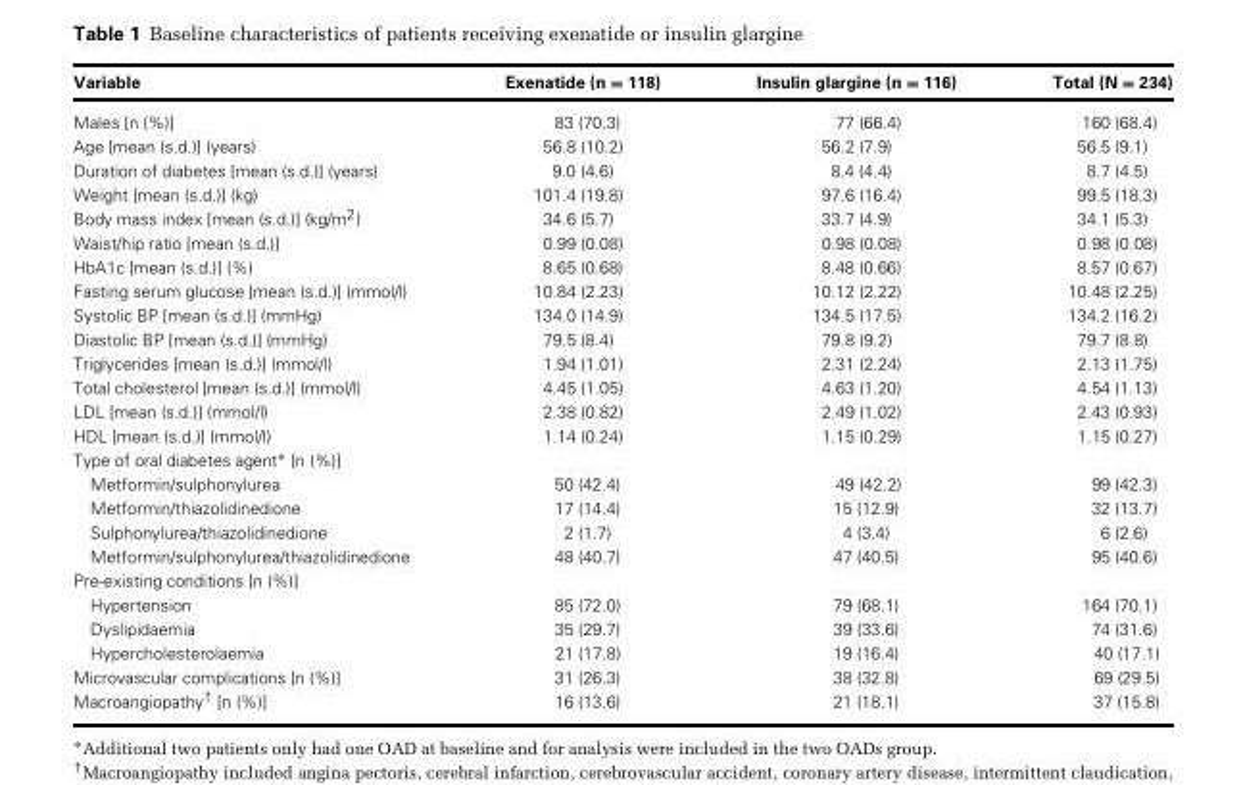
<table><thead><tr><td>Variable</td><td>Exenatide (n = 118)</td><td>Insulin glargine (n = 116)</td><td>Total (N = 234)</td></tr></thead><tbody><tr><td>Males [n (%)]</td><td>83 (70.3)</td><td>77 (66.4)</td><td>160 (68.4)</td></tr><tr><td>Age [mean (s.d.)] (years)</td><td>56.8 (10.2)</td><td>56.2 (7.9)</td><td>56.5 (9.1)</td></tr><tr><td>Duration of diabetes [mean (s.d.)] (years)</td><td>9.0 (4.6)</td><td>8.4 (4.4)</td><td>8.7 (4.5)</td></tr><tr><td>Weight [mean (s.d.)] (kg)</td><td>101.4 (19.8)</td><td>97.6 (16.4)</td><td>99.5 (18.3)</td></tr><tr><td>Body mass index [mean (s.d.)] (kg/m<sup>2</sup>)</td><td>34.6 (5.7)</td><td>33.7 (4.9)</td><td>34.1 (5.3)</td></tr><tr><td>Waist/hip ratio [mean (s.d.)]</td><td>0.99 (0.08)</td><td>0.98 (0.08)</td><td>0.98 (0.08)</td></tr><tr><td>HbA1c [mean (s.d.)] (%)</td><td>8.65 (0.68)</td><td>8.48 (0.66)</td><td>8.57 (0.67)</td></tr><tr><td>Fasting serum glucose [mean (s.d.)] (mmol/l)</td><td>10.84 (2.23)</td><td>10.12 (2.22)</td><td>10.48 (2.25)</td></tr><tr><td>Systolic BP [mean (s.d.)] (mmHg)</td><td>134.0 (14.9)</td><td>134.5 (17.5)</td><td>134.2 (16.2)</td></tr><tr><td>Diastolic BP [mean (s.d.)] (mmHg)</td><td>79.5 (8.4)</td><td>79.8 (9.2)</td><td>79.7 (8.8)</td></tr><tr><td>Triglycerides [mean (s.d.)] (mmol/l)</td><td>1.94 (1.01)</td><td>2.31 (2.24)</td><td>2.13 (1.75)</td></tr><tr><td>Total cholesterol [mean (s.d.)] (mmol/l)</td><td>4.45 (1.05)</td><td>4.63 (1.20)</td><td>4.54 (1.13)</td></tr><tr><td>LDL [mean (s.d.)] (mmol/l)</td><td>2.38 (0.82)</td><td>2.49 (1.02)</td><td>2.43 (0.93)</td></tr><tr><td>HDL [mean (s.d.)] (mmol/l)</td><td>1.14 (0.24)</td><td>1.15 (0.29)</td><td>1.15 (0.27)</td></tr><tr><td colspan="4">Type of oral diabetes agent∗ [n (%)]</td></tr><tr><td>Metformin/sulphonylurea</td><td>50 (42.4)</td><td>49 (42.2)</td><td>99 (42.3)</td></tr><tr><td>Metformin/thiazolidinedione</td><td>17 (14.4)</td><td>15 (12.9)</td><td>32 (13.7)</td></tr><tr><td>Sulphonylurea/thiazolidinedione</td><td>2 (1.7)</td><td>4 (3.4)</td><td>6 (2.6)</td></tr><tr><td>Metformin/sulphonylurea/thiazolidinedione</td><td>48 (40.7)</td><td>47 (40.5)</td><td>95 (40.6)</td></tr><tr><td colspan="4">Pre-existing conditions [n (%)]</td></tr><tr><td>Hypertension</td><td>85 (72.0)</td><td>79 (68.1)</td><td>164 (70.1)</td></tr><tr><td>Dyslipidaemia</td><td>35 (29.7)</td><td>39 (33.6)</td><td>74 (31.6)</td></tr><tr><td>Hypercholesterolaemia</td><td>21 (17.8)</td><td>19 (16.4)</td><td>40 (17.1)</td></tr><tr><td>Microvascular complications [n (%)]</td><td>31 (26.3)</td><td>38 (32.8)</td><td>69 (29.5)</td></tr><tr><td>Macroangiopathy† [n (%)]</td><td>16 (13.6)</td><td>21 (18.1)</td><td>37 (15.8)</td></tr></tbody></table>